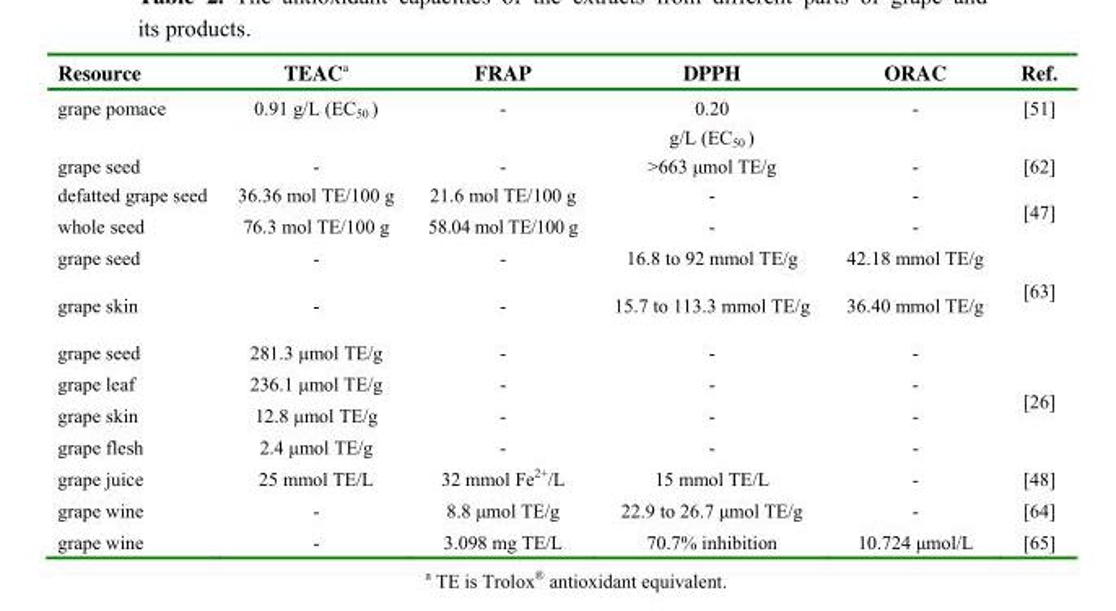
<table><thead><tr><td>Resource</td><td>TEAC<sup>a</sup></td><td>FRAP</td><td>DPPH</td><td>ORAC</td><td>Ref.</td></tr></thead><tbody><tr><td>grape pomace</td><td>0.91 g/L (EC<sub>50</sub> )</td><td>-</td><td>0.20 g/L (EC<sub>50</sub> )</td><td>-</td><td>[51]</td></tr><tr><td>grape seed</td><td>-</td><td>-</td><td>&gt;663 μmol TE/g</td><td>-</td><td>[62]</td></tr><tr><td>defatted grape seed</td><td>36.36 mol TE/100 g</td><td>21.6 mol TE/100 g</td><td>-</td><td>-</td><td rowspan="2">[47]</td></tr><tr><td>whole seed</td><td>76.3 mol TE/100 g</td><td>58.04 mol TE/100 g</td><td>-</td><td>-</td></tr><tr><td>grape seed</td><td>-</td><td>-</td><td>16.8 to 92 mmol TE/g</td><td>42.18 mmol TE/g</td><td rowspan="2">[63]</td></tr><tr><td>grape skin</td><td>-</td><td>-</td><td>15.7 to 113.3 mmol TE/g</td><td>36.40 mmol TE/g</td></tr><tr><td>grape seed</td><td>281.3 μmol TE/g</td><td>-</td><td>-</td><td>-</td><td rowspan="4">[26]</td></tr><tr><td>grape leaf</td><td>236.1 μmol TE/g</td><td>-</td><td>-</td><td>-</td></tr><tr><td>grape skin</td><td>12.8 μmol TE/g</td><td>-</td><td>-</td><td>-</td></tr><tr><td>grape flesh</td><td>2.4 μmol TE/g</td><td>-</td><td>-</td><td>-</td></tr><tr><td>grape juice</td><td>25 mmol TE/L</td><td>32 mmol Fe<sup>2+</sup>/L</td><td>15 mmol TE/L</td><td>-</td><td>[48]</td></tr><tr><td>grape wine</td><td>-</td><td>8.8 μmol TE/g</td><td>22.9 to 26.7 μmol TE/g</td><td>-</td><td>[64]</td></tr><tr><td>grape wine</td><td>-</td><td>3.098 mg TE/L</td><td>70.7% inhibition</td><td>10.724 μmol/L</td><td>[65]</td></tr></tbody></table>